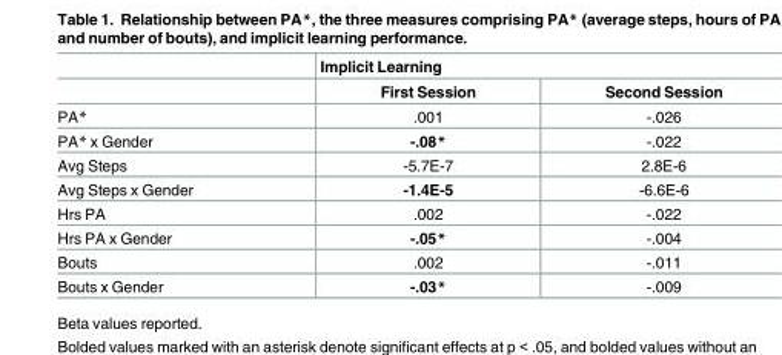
<table><thead><tr><td rowspan="2"></td><td colspan="2">Implicit Learning</td></tr><tr><td>First Session</td><td>Second Session</td></tr></thead><tbody><tr><td>PA*</td><td>.001</td><td>-.026</td></tr><tr><td>PA* x Gender</td><td>-.08*</td><td>-.022</td></tr><tr><td>Avg Steps</td><td>-5.7E-7</td><td>2.8E-6</td></tr><tr><td>Avg Steps x Gender</td><td>-1.4E-5</td><td>-6.6E-6</td></tr><tr><td>Hrs PA</td><td>.002</td><td>-.022</td></tr><tr><td>Hrs PA x Gender</td><td>-.05*</td><td>-.004</td></tr><tr><td>Bouts</td><td>.002</td><td>-.011</td></tr><tr><td>Bouts x Gender</td><td>-.03*</td><td>-.009</td></tr></tbody></table>